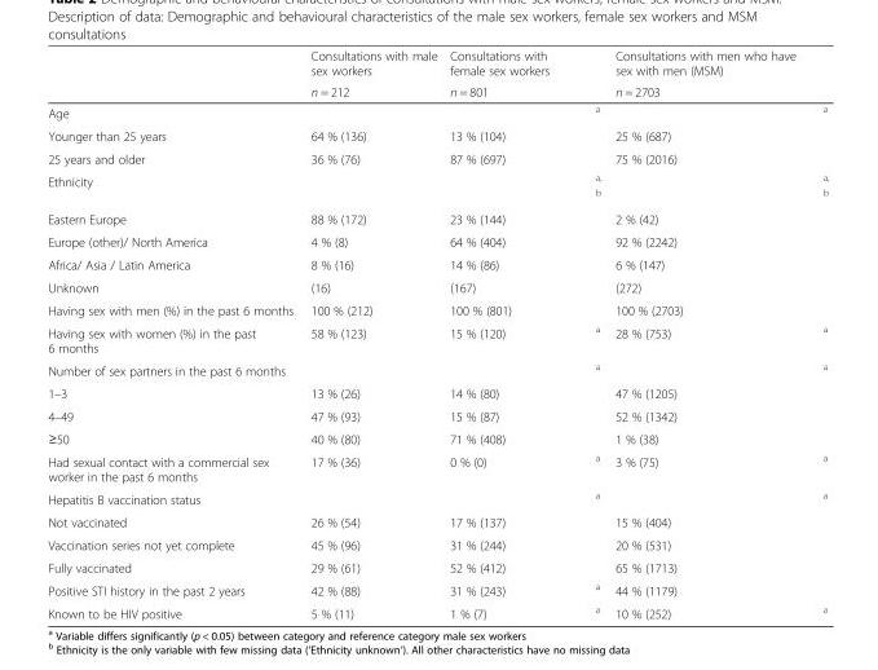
<table><thead><tr><td rowspan="2"></td><td rowspan="2">Consultations with male sex workers n = 212</td><td rowspan="2">Consultations with female sex workers n = 801</td><td rowspan="2"></td><td rowspan="2">Consultations with men who have sex with men (MSM) n = 2703</td><td rowspan="2"></td></tr><tr></tr></thead><tbody><tr><td>Age</td><td></td><td></td><td><sup>a</sup></td><td></td><td><sup>a</sup></td></tr><tr><td>Younger than 25 years</td><td>64 % (136)</td><td>13 % (104)</td><td></td><td>25 % (687)</td><td></td></tr><tr><td>25 years and older</td><td>36 % (76)</td><td>87 % (697)</td><td></td><td>75 % (2016)</td><td></td></tr><tr><td>Ethnicity</td><td></td><td></td><td><sup>a, b</sup></td><td></td><td><sup>a, b</sup></td></tr><tr><td>Eastern Europe</td><td>88 % (172)</td><td>23 % (144)</td><td></td><td>2 % (42)</td><td></td></tr><tr><td>Europe (other)/ North America</td><td>4 % (8)</td><td>64 % (404)</td><td></td><td>92 % (2242)</td><td></td></tr><tr><td>Africa/ Asia / Latin America</td><td>8 % (16)</td><td>14 % (86)</td><td></td><td>6 % (147)</td><td></td></tr><tr><td>Unknown</td><td>(16)</td><td>(167)</td><td></td><td>(272)</td><td></td></tr><tr><td>Having sex with men (%) in the past 6 months</td><td>100 % (212)</td><td>100 % (801)</td><td></td><td>100 % (2703)</td><td></td></tr><tr><td>Having sex with women (%) in the past 6 months</td><td>58 % (123)</td><td>15 % (120)</td><td><sup>a</sup></td><td>28 % (753)</td><td><sup>a</sup></td></tr><tr><td>Number of sex partners in the past 6 months</td><td></td><td></td><td><sup>a</sup></td><td></td><td><sup>a</sup></td></tr><tr><td>1–3</td><td>13 % (26)</td><td>14 % (80)</td><td></td><td>47 % (1205)</td><td></td></tr><tr><td>4–49</td><td>47 % (93)</td><td>15 % (87)</td><td></td><td>52 % (1342)</td><td></td></tr><tr><td>≥50</td><td>40 % (80)</td><td>71 % (408)</td><td></td><td>1 % (38)</td><td></td></tr><tr><td>Had sexual contact with a commercial sex worker in the past 6 months</td><td>17 % (36)</td><td>0 % (0)</td><td><sup>a</sup></td><td>3 % (75)</td><td><sup>a</sup></td></tr><tr><td>Hepatitis B vaccination status</td><td></td><td></td><td><sup>a</sup></td><td></td><td><sup>a</sup></td></tr><tr><td>Not vaccinated</td><td>26 % (54)</td><td>17 % (137)</td><td></td><td>15 % (404)</td><td></td></tr><tr><td>Vaccination series not yet complete</td><td>45 % (96)</td><td>31 % (244)</td><td></td><td>20 % (531)</td><td></td></tr><tr><td>Fully vaccinated</td><td>29 % (61)</td><td>52 % (412)</td><td></td><td>65 % (1713)</td><td></td></tr><tr><td>Positive STI history in the past 2 years</td><td>42 % (88)</td><td>31 % (243)</td><td><sup>a</sup></td><td>44 % (1179)</td><td></td></tr><tr><td>Known to be HIV positive</td><td>5 % (11)</td><td>1 % (7)</td><td><sup>a</sup></td><td>10 % (252)</td><td><sup>a</sup></td></tr></tbody></table>